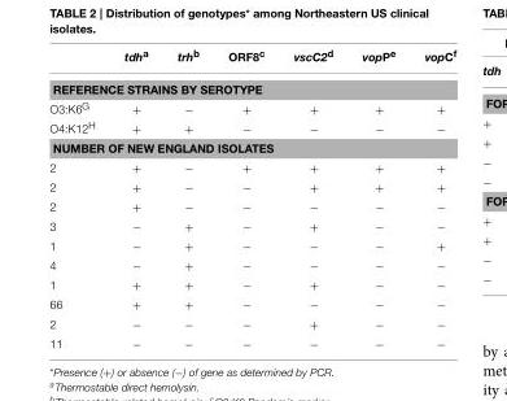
<table><thead><tr><td></td><td>tdh<sup>a</sup></td><td>trh<sup>b</sup></td><td>ORF8<sup>c</sup></td><td>vscC2<sup>d</sup></td><td>vopP<sup>e</sup></td><td>vopC<sup>f</sup></td></tr></thead><tbody><tr><td colspan="7">REFERENCE STRAINS BY SEROTYPE</td></tr><tr><td>O3:K6<sup>G</sup></td><td>+</td><td>−</td><td>+</td><td>+</td><td>+</td><td>+</td></tr><tr><td>O4:K12<sup>H</sup></td><td>+</td><td>+</td><td>−</td><td>−</td><td>−</td><td>−</td></tr><tr><td colspan="7">NUMBER OF NEW ENGLAND ISOLATES</td></tr><tr><td>2</td><td>+</td><td>−</td><td>+</td><td>+</td><td>+</td><td>+</td></tr><tr><td>2</td><td>+</td><td>−</td><td>−</td><td>+</td><td>+</td><td>+</td></tr><tr><td>2</td><td>+</td><td>−</td><td>−</td><td>−</td><td>−</td><td>−</td></tr><tr><td>3</td><td>−</td><td>+</td><td>−</td><td>+</td><td>−</td><td>−</td></tr><tr><td>1</td><td>−</td><td>+</td><td>−</td><td>−</td><td>−</td><td>+</td></tr><tr><td>4</td><td>−</td><td>+</td><td>−</td><td>−</td><td>−</td><td>−</td></tr><tr><td>1</td><td>+</td><td>+</td><td>−</td><td>+</td><td>−</td><td>−</td></tr><tr><td>66</td><td>+</td><td>+</td><td>−</td><td>−</td><td>−</td><td>−</td></tr><tr><td>2</td><td>−</td><td>−</td><td>−</td><td>+</td><td>−</td><td>−</td></tr><tr><td>11</td><td>−</td><td>−</td><td>−</td><td>−</td><td>−</td><td>−</td></tr></tbody></table>